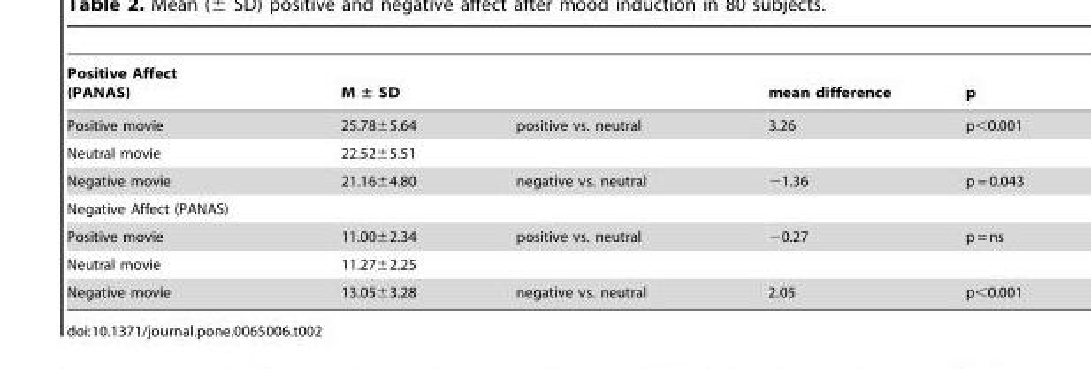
<table><thead><tr><td>Positive Affect (PANAS)</td><td>M ± SD</td><td></td><td>mean difference</td><td>p</td></tr></thead><tbody><tr><td>Positive movie</td><td>25.78±5.64</td><td>positive vs. neutral</td><td>3.26</td><td>p&lt;0.001</td></tr><tr><td>Neutral movie</td><td>22.52±5.51</td><td></td><td></td><td></td></tr><tr><td>Negative movie</td><td>21.16±4.80</td><td>negative vs. neutral</td><td>−1.36</td><td>p = 0.043</td></tr><tr><td colspan="5">Negative Affect (PANAS)</td></tr><tr><td>Positive movie</td><td>11.00±2.34</td><td>positive vs. neutral</td><td>−0.27</td><td>p = ns</td></tr><tr><td>Neutral movie</td><td>11.27±2.25</td><td></td><td></td><td></td></tr><tr><td>Negative movie</td><td>13.05±3.28</td><td>negative vs. neutral</td><td>2.05</td><td>p&lt;0.001</td></tr></tbody></table>